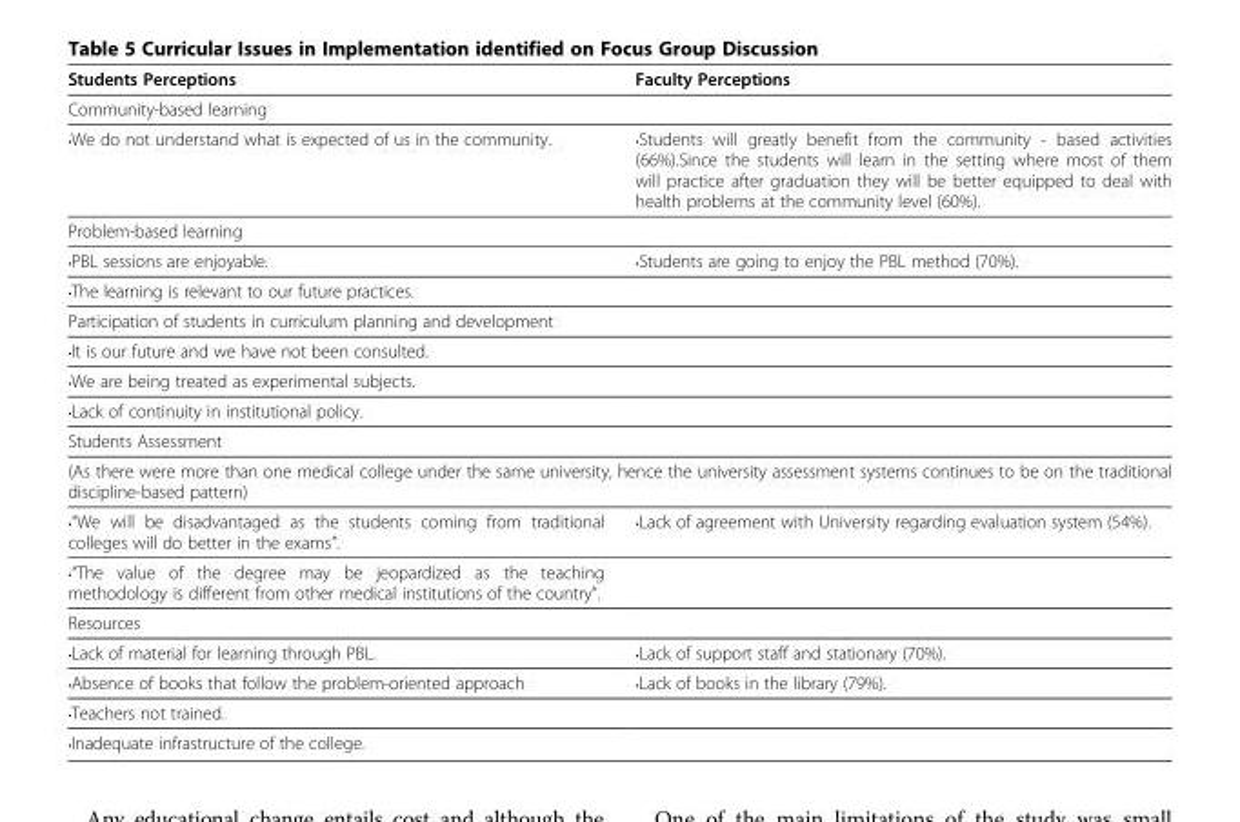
<table><thead><tr><td>Students Perceptions</td><td>Faculty Perceptions</td></tr></thead><tbody><tr><td colspan="2">Community-based learning</td></tr><tr><td>•We do not understand what is expected of us in the community.</td><td>•Students will greatly benefit from the community - based activities (66%).Since the students will learn in the setting where most of them will practice after graduation they will be better equipped to deal with health problems at the community level (60%).</td></tr><tr><td colspan="2">Problem-based learning</td></tr><tr><td>•PBL sessions are enjoyable.</td><td>•Students are going to enjoy the PBL method (70%).</td></tr><tr><td colspan="2">•The learning is relevant to our future practices.</td></tr><tr><td colspan="2">Participation of students in curriculum planning and development</td></tr><tr><td colspan="2">•It is our future and we have not been consulted.</td></tr><tr><td colspan="2">•We are being treated as experimental subjects.</td></tr><tr><td colspan="2">•Lack of continuity in institutional policy.</td></tr><tr><td colspan="2">Students Assessment</td></tr><tr><td colspan="2">(As there were more than one medical college under the same university, hence the university assessment systems continues to be on the traditional discipline-based pattern)</td></tr><tr><td>•“We will be disadvantaged as the students coming from traditional colleges will do better in the exams”.</td><td>•Lack of agreement with University regarding evaluation system (54%).</td></tr><tr><td colspan="2">•“The value of the degree may be jeopardized as the teaching methodology is different from other medical institutions of the country”.</td></tr><tr><td colspan="2">Resources</td></tr><tr><td>•Lack of material for learning through PBL.</td><td>•Lack of support staff and stationary (70%).</td></tr><tr><td>•Absence of books that follow the problem-oriented approach</td><td>•Lack of books in the library (79%).</td></tr><tr><td colspan="2">•Teachers not trained.</td></tr><tr><td>•Inadequate infrastructure of the college.</td><td></td></tr></tbody></table>